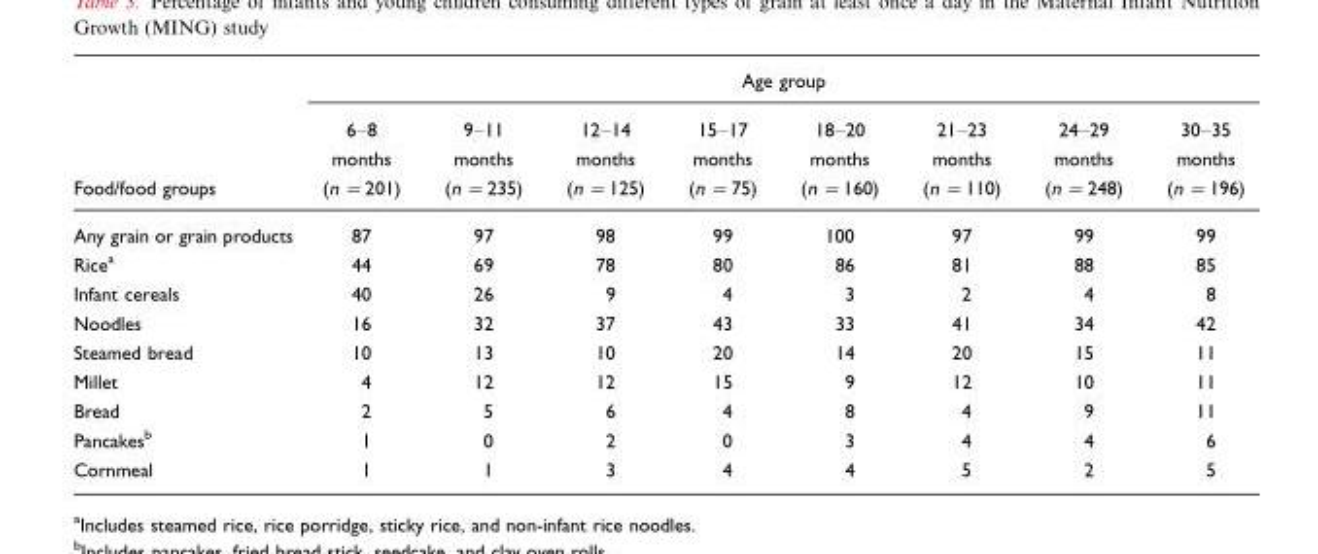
<table><thead><tr><td rowspan="2">Food/food groups</td><td colspan="8">Age group</td></tr><tr><td>6–8 months (n =201)</td><td>9–11 months (n =235)</td><td>12–14 months (n =125)</td><td>15–17 months (n =75)</td><td>18–20 months (n =160)</td><td>21–23 months (n =110)</td><td>24–29 months (n =248)</td><td>30–35 months (n =196)</td></tr></thead><tbody><tr><td>Any grain or grain products</td><td>87</td><td>97</td><td>98</td><td>99</td><td>100</td><td>97</td><td>99</td><td>99</td></tr><tr><td>Rice<sup>a</sup></td><td>44</td><td>69</td><td>78</td><td>80</td><td>86</td><td>81</td><td>88</td><td>85</td></tr><tr><td>Infant cereals</td><td>40</td><td>26</td><td>9</td><td>4</td><td>3</td><td>2</td><td>4</td><td>8</td></tr><tr><td>Noodles</td><td>16</td><td>32</td><td>37</td><td>43</td><td>33</td><td>41</td><td>34</td><td>42</td></tr><tr><td>Steamed bread</td><td>10</td><td>13</td><td>10</td><td>20</td><td>14</td><td>20</td><td>15</td><td>11</td></tr><tr><td>Millet</td><td>4</td><td>12</td><td>12</td><td>15</td><td>9</td><td>12</td><td>10</td><td>11</td></tr><tr><td>Bread</td><td>2</td><td>5</td><td>6</td><td>4</td><td>8</td><td>4</td><td>9</td><td>11</td></tr><tr><td>Pancakes<sup>b</sup></td><td>1</td><td>0</td><td>2</td><td>0</td><td>3</td><td>4</td><td>4</td><td>6</td></tr><tr><td>Cornmeal</td><td>1</td><td>1</td><td>3</td><td>4</td><td>4</td><td>5</td><td>2</td><td>5</td></tr></tbody></table>